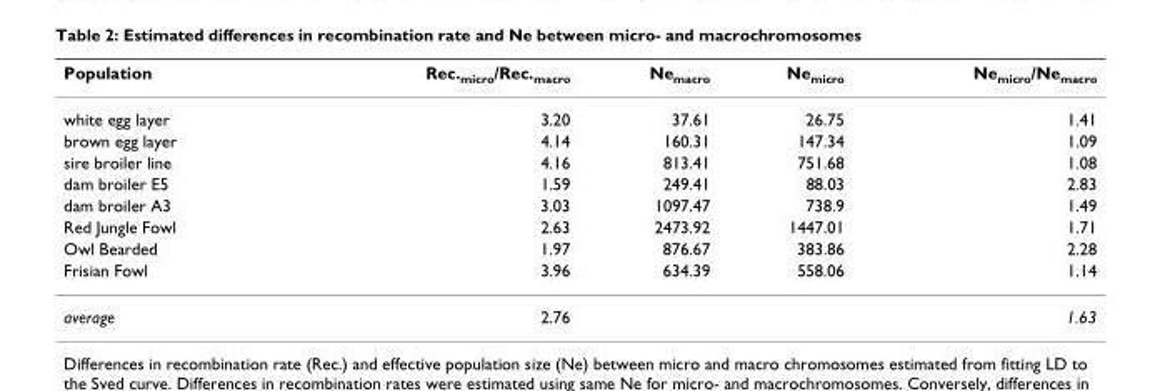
<table><thead><tr><td>Population</td><td>Rec.<sub>micro</sub>/Rec.<sub>macro</sub></td><td>Ne<sub>macro</sub></td><td>Ne<sub>micro</sub></td><td>Ne<sub>micro</sub>/Ne<sub>macro</sub></td></tr></thead><tbody><tr><td>white egg layer</td><td>3.20</td><td>37.61</td><td>26.75</td><td>1.41</td></tr><tr><td>brown egg layer</td><td>4.14</td><td>160.31</td><td>147.34</td><td>1.09</td></tr><tr><td>sire broiler line</td><td>4.16</td><td>813.41</td><td>751.68</td><td>1.08</td></tr><tr><td>dam broiler E5</td><td>1.59</td><td>249.41</td><td>88.03</td><td>2.83</td></tr><tr><td>dam broiler A3</td><td>3.03</td><td>1097.47</td><td>738.9</td><td>1.49</td></tr><tr><td>Red Jungle Fowl</td><td>2.63</td><td>2473.92</td><td>1447.01</td><td>1.71</td></tr><tr><td>Owl Bearded</td><td>1.97</td><td>876.67</td><td>383.86</td><td>2.28</td></tr><tr><td>Frisian Fowl</td><td>3.96</td><td>634.39</td><td>558.06</td><td>1.14</td></tr><tr><td>average</td><td>2.76</td><td></td><td></td><td>1.63</td></tr></tbody></table>